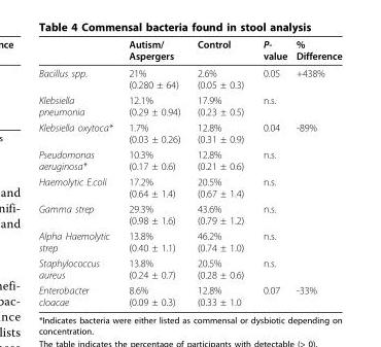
<table><thead><tr><td></td><td>Autism/ Aspergers</td><td>Control</td><td>P- value</td><td>% Difference</td></tr></thead><tbody><tr><td>Bacillus spp.</td><td>21% (0.280 ± 64)</td><td>2.6% (0.05 ± 0.3)</td><td>0.05</td><td>+438%</td></tr><tr><td>Klebsiella pneumonia</td><td>12.1% (0.29 ± 0.94)</td><td>17.9% (0.23 ± 0.5)</td><td>n.s.</td><td></td></tr><tr><td>Klebsiella oxytoca*</td><td>1.7% (0.03 ± 0.26)</td><td>12.8% (0.31 ± 0.9)</td><td>0.04</td><td>-89%</td></tr><tr><td>Pseudomonas aeruginosa*</td><td>10.3% (0.17 ± 0.6)</td><td>12.8% (0.21 ± 0.6)</td><td>n.s.</td><td></td></tr><tr><td>Haemolytic E.coli</td><td>17.2% (0.64 ± 1.4)</td><td>20.5% (0.67 ± 1.4)</td><td>n.s.</td><td></td></tr><tr><td>Gamma strep</td><td>29.3% (0.98 ± 1.6)</td><td>43.6% (0.79 ± 1.2)</td><td>n.s.</td><td></td></tr><tr><td>Alpha Haemolytic strep</td><td>13.8% (0.40 ± 1.1)</td><td>46.2% (0.74 ± 1.0)</td><td>n.s.</td><td></td></tr><tr><td>Staphylococcus aureus</td><td>13.8% (0.24 ± 0.7)</td><td>20.5% (0.28 ± 0.6)</td><td>n.s.</td><td></td></tr><tr><td>Enterobacter cloacae</td><td>8.6% (0.09 ± 0.3)</td><td>12.8% (0.33 ± 1.0</td><td>0.07</td><td>-33%</td></tr></tbody></table>